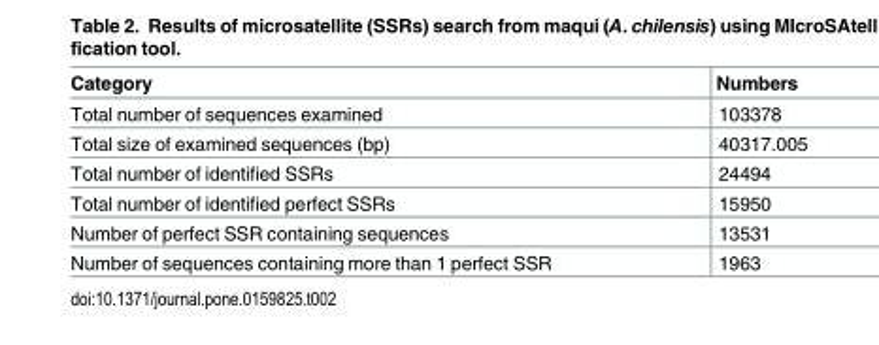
<table><thead><tr><td>Category</td><td>Numbers</td></tr></thead><tbody><tr><td>Total number of sequences examined</td><td>103378</td></tr><tr><td>Total size of examined sequences (bp)</td><td>40317.005</td></tr><tr><td>Total number of identified SSRs</td><td>24494</td></tr><tr><td>Total number of identified perfect SSRs</td><td>15950</td></tr><tr><td>Number of perfect SSR containing sequences</td><td>13531</td></tr><tr><td>Number of sequences containing more than 1 perfect SSR</td><td>1963</td></tr></tbody></table>